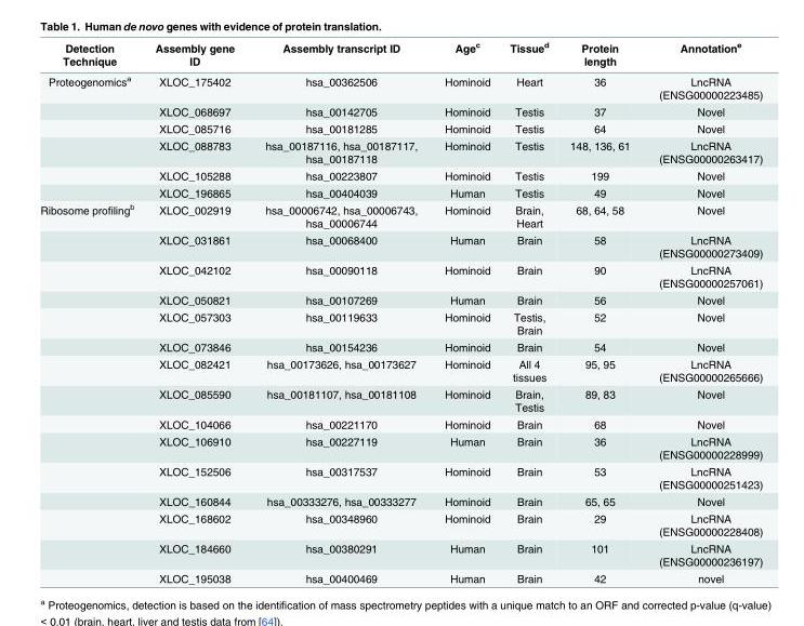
<table><thead><tr><td>Detection Technique</td><td>Assembly gene ID</td><td>Assembly transcript ID</td><td>Age<sup>c</sup></td><td>Tissue<sup>d</sup></td><td>Protein length</td><td>Annotation<sup>e</sup></td></tr></thead><tbody><tr><td rowspan="6">Proteogenomics<sup>a</sup></td><td>XLOC_175402</td><td>hsa_00362506</td><td>Hominoid</td><td>Heart</td><td>36</td><td>LncRNA (ENSG00000223485)</td></tr><tr><td>XLOC_068697</td><td>hsa_00142705</td><td>Hominoid</td><td>Testis</td><td>37</td><td>Novel</td></tr><tr><td>XLOC_085716</td><td>hsa_00181285</td><td>Hominoid</td><td>Testis</td><td>64</td><td>Novel</td></tr><tr><td>XLOC_088783</td><td>hsa_00187116, hsa_00187117, hsa_00187118</td><td>Hominoid</td><td>Testis</td><td>148, 136, 61</td><td>LncRNA (ENSG00000263417)</td></tr><tr><td>XLOC_105288</td><td>hsa_00223807</td><td>Hominoid</td><td>Testis</td><td>199</td><td>Novel</td></tr><tr><td>XLOC_196865</td><td>hsa_00404039</td><td>Human</td><td>Testis</td><td>49</td><td>Novel</td></tr><tr><td rowspan="15">Ribosome profiling<sup>b</sup></td><td>XLOC_002919</td><td>hsa_00006742, hsa_00006743, hsa_00006744</td><td>Hominoid</td><td>Brain, Heart</td><td>68, 64, 58</td><td>Novel</td></tr><tr><td>XLOC_031861</td><td>hsa_00068400</td><td>Human</td><td>Brain</td><td>58</td><td>LncRNA (ENSG00000273409)</td></tr><tr><td>XLOC_042102</td><td>hsa_00090118</td><td>Hominoid</td><td>Brain</td><td>90</td><td>LncRNA (ENSG00000257061)</td></tr><tr><td>XLOC_050821</td><td>hsa_00107269</td><td>Human</td><td>Brain</td><td>56</td><td>Novel</td></tr><tr><td>XLOC_057303</td><td>hsa_00119633</td><td>Hominoid</td><td>Testis, Brain</td><td>52</td><td>Novel</td></tr><tr><td>XLOC_073846</td><td>hsa_00154236</td><td>Hominoid</td><td>Brain</td><td>54</td><td>Novel</td></tr><tr><td>XLOC_082421</td><td>hsa_00173626, hsa_00173627</td><td>Hominoid</td><td>All 4 tissues</td><td>95, 95</td><td>LncRNA (ENSG00000265666)</td></tr><tr><td>XLOC_085590</td><td>hsa_00181107, hsa_00181108</td><td>Hominoid</td><td>Brain, Testis</td><td>89, 83</td><td>Novel</td></tr><tr><td>XLOC_104066</td><td>hsa_00221170</td><td>Hominoid</td><td>Brain</td><td>68</td><td>Novel</td></tr><tr><td>XLOC_106910</td><td>hsa_00227119</td><td>Human</td><td>Brain</td><td>36</td><td>LncRNA (ENSG00000228999)</td></tr><tr><td>XLOC_152506</td><td>hsa_00317537</td><td>Hominoid</td><td>Brain</td><td>53</td><td>LncRNA (ENSG00000251423)</td></tr><tr><td>XLOC_160844</td><td>hsa_00333276, hsa_00333277</td><td>Hominoid</td><td>Brain</td><td>65, 65</td><td>Novel</td></tr><tr><td>XLOC_168602</td><td>hsa_00348960</td><td>Hominoid</td><td>Brain</td><td>29</td><td>LncRNA (ENSG00000228408)</td></tr><tr><td>XLOC_184660</td><td>hsa_00380291</td><td>Human</td><td>Brain</td><td>101</td><td>LncRNA (ENSG00000236197)</td></tr><tr><td>XLOC_195038</td><td>hsa_00400469</td><td>Human</td><td>Brain</td><td>42</td><td>novel</td></tr></tbody></table>